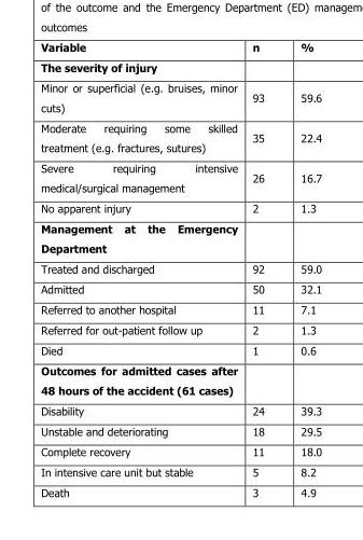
<table><thead><tr><td>Variable</td><td>n</td><td>%</td></tr></thead><tbody><tr><td colspan="3">The severity of injury</td></tr><tr><td>Minor or superficial (e.g. bruises, minor cuts)</td><td>93</td><td>59.6</td></tr><tr><td>Moderate requiring some skilled treatment (e.g. fractures, sutures)</td><td>35</td><td>22.4</td></tr><tr><td>Severe requiring intensive medical/surgical management</td><td>26</td><td>16.7</td></tr><tr><td>No apparent injury</td><td>2</td><td>1.3</td></tr><tr><td colspan="3">Management at the Emergency Department</td></tr><tr><td>Treated and discharged</td><td>92</td><td>59.0</td></tr><tr><td>Admitted</td><td>50</td><td>32.1</td></tr><tr><td>Referred to another hospital</td><td>11</td><td>7.1</td></tr><tr><td>Referred for out-patient follow up</td><td>2</td><td>1.3</td></tr><tr><td>Died</td><td>1</td><td>0.6</td></tr><tr><td colspan="3">Outcomes for admitted cases after 48 hours of the accident (61 cases)</td></tr><tr><td>Disability</td><td>24</td><td>39.3</td></tr><tr><td>Unstable and deteriorating</td><td>18</td><td>29.5</td></tr><tr><td>Complete recovery</td><td>11</td><td>18.0</td></tr><tr><td>In intensive care unit but stable</td><td>5</td><td>8.2</td></tr><tr><td>Death</td><td>3</td><td>4.9</td></tr></tbody></table>